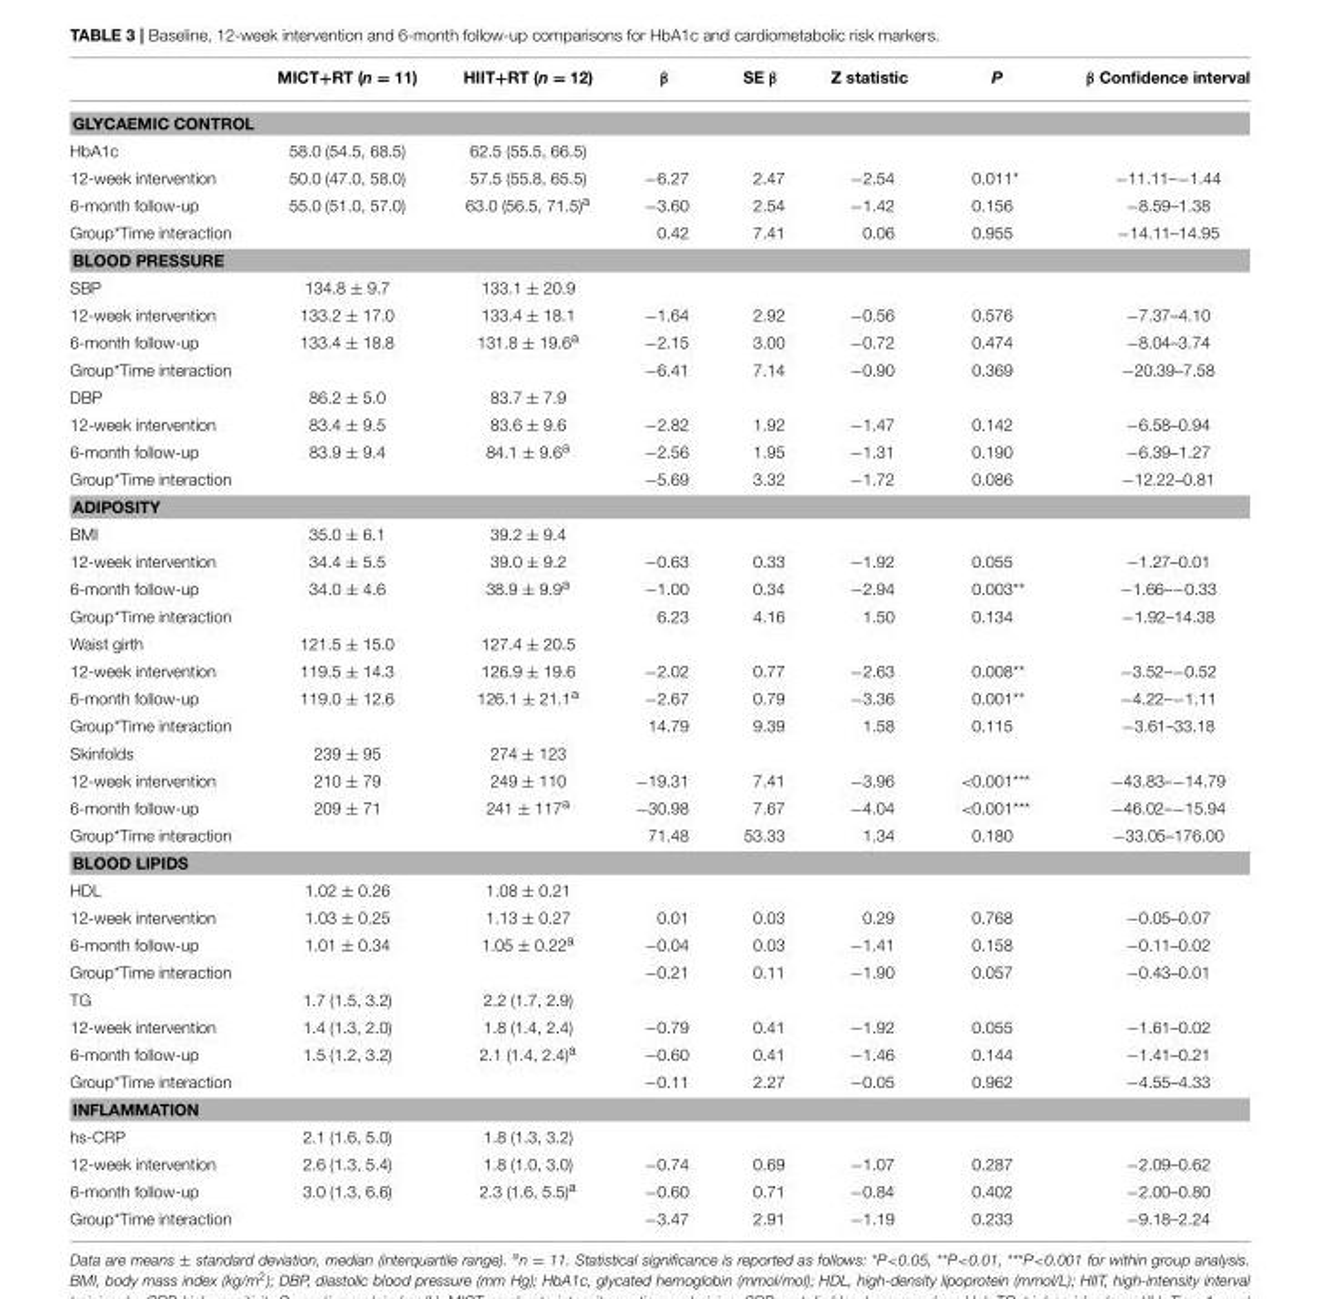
<table><thead><tr><td></td><td>MICT+RT (n = 11)</td><td>HIIT+RT (n = 12)</td><td>β</td><td>SE β</td><td>Z statistic</td><td>P</td><td>β Confidence interval</td></tr></thead><tbody><tr><td colspan="8">GLYCAEMIC CONTROL</td></tr><tr><td>HbA1c</td><td>58.0 (54.5, 68.5)</td><td>62.5 (55.5, 66.5)</td><td></td><td></td><td></td><td></td><td></td></tr><tr><td>12-week intervention</td><td>50.0 (47.0, 58.0)</td><td>57.5 (55.8, 65.5)</td><td>−6.27</td><td>2.47</td><td>−2.54</td><td>0.011*</td><td>−11.11–−1.44</td></tr><tr><td>6-month follow-up</td><td>55.0 (51.0, 57.0)</td><td>63.0 (56.5, 71.5)<sup>a</sup></td><td>−3.60</td><td>2.54</td><td>−1.42</td><td>0.156</td><td>−8.59–1.38</td></tr><tr><td>Group*Time interaction</td><td></td><td></td><td>0.42</td><td>7.41</td><td>0.06</td><td>0.955</td><td>−14.11–14.95</td></tr><tr><td colspan="8">BLOOD PRESSURE</td></tr><tr><td>SBP</td><td>134.8 ± 9.7</td><td>133.1 ± 20.9</td><td></td><td></td><td></td><td></td><td></td></tr><tr><td>12-week intervention</td><td>133.2 ± 17.0</td><td>133.4 ± 18.1</td><td>−1.64</td><td>2.92</td><td>−0.56</td><td>0.576</td><td>−7.37–4.10</td></tr><tr><td>6-month follow-up</td><td>133.4 ± 18.8</td><td>131.8 ± 19.6<sup>a</sup></td><td>−2.15</td><td>3.00</td><td>−0.72</td><td>0.474</td><td>−8.04–3.74</td></tr><tr><td>Group*Time interaction</td><td></td><td></td><td>−6.41</td><td>7.14</td><td>−0.90</td><td>0.369</td><td>−20.39–7.58</td></tr><tr><td>DBP</td><td>86.2 ± 5.0</td><td>83.7 ± 7.9</td><td></td><td></td><td></td><td></td><td></td></tr><tr><td>12-week intervention</td><td>83.4 ± 9.5</td><td>83.6 ± 9.6</td><td>−2.82</td><td>1.92</td><td>−1.47</td><td>0.142</td><td>−6.58–0.94</td></tr><tr><td>6-month follow-up</td><td>83.9 ± 9.4</td><td>84.1 ± 9.6<sup>a</sup></td><td>−2.56</td><td>1.95</td><td>−1.31</td><td>0.190</td><td>−6.39–1.27</td></tr><tr><td>Group*Time interaction</td><td></td><td></td><td>−5.69</td><td>3.32</td><td>−1.72</td><td>0.086</td><td>−12.22–0.81</td></tr><tr><td colspan="8">ADIPOSITY</td></tr><tr><td>BMI</td><td>35.0 ± 6.1</td><td>39.2 ± 9.4</td><td></td><td></td><td></td><td></td><td></td></tr><tr><td>12-week intervention</td><td>34.4 ± 5.5</td><td>39.0 ± 9.2</td><td>−0.63</td><td>0.33</td><td>−1.92</td><td>0.055</td><td>−1.27–0.01</td></tr><tr><td>6-month follow-up</td><td>34.0 ± 4.6</td><td>38.9 ± 9.9<sup>a</sup></td><td>−1.00</td><td>0.34</td><td>−2.94</td><td>0.003**</td><td>−1.66–−0.33</td></tr><tr><td>Group*Time interaction</td><td></td><td></td><td>6.23</td><td>4.16</td><td>1.50</td><td>0.134</td><td>−1.92–14.38</td></tr><tr><td>Waist girth</td><td>121.5 ± 15.0</td><td>127.4 ± 20.5</td><td></td><td></td><td></td><td></td><td></td></tr><tr><td>12-week intervention</td><td>119.5 ± 14.3</td><td>126.9 ± 19.6</td><td>−2.02</td><td>0.77</td><td>−2.63</td><td>0.008**</td><td>−3.52–−0.52</td></tr><tr><td>6-month follow-up</td><td>119.0 ± 12.6</td><td>126.1 ± 21.1<sup>a</sup></td><td>−2.67</td><td>0.79</td><td>−3.36</td><td>0.001**</td><td>−4.22–−1.11</td></tr><tr><td>Group*Time interaction</td><td></td><td></td><td>14.79</td><td>9.39</td><td>1.58</td><td>0.115</td><td>−3.61–33.18</td></tr><tr><td>Skinfolds</td><td>239 ± 95</td><td>274 ± 123</td><td></td><td></td><td></td><td></td><td></td></tr><tr><td>12-week intervention</td><td>210 ± 79</td><td>249 ± 110</td><td>−19.31</td><td>7.41</td><td>−3.96</td><td>&lt;0.001***</td><td>−43.83–−14.79</td></tr><tr><td>6-month follow-up</td><td>209 ± 71</td><td>241 ± 117<sup>a</sup></td><td>−30.98</td><td>7.67</td><td>−4.04</td><td>&lt;0.001***</td><td>−46.02–−15.94</td></tr><tr><td>Group*Time interaction</td><td></td><td></td><td>71.48</td><td>53.33</td><td>1.34</td><td>0.180</td><td>−33.05–176.00</td></tr><tr><td colspan="8">BLOOD LIPIDS</td></tr><tr><td>HDL</td><td>1.02 ± 0.26</td><td>1.08 ± 0.21</td><td></td><td></td><td></td><td></td><td></td></tr><tr><td>12-week intervention</td><td>1.03 ± 0.25</td><td>1.13 ± 0.27</td><td>0.01</td><td>0.03</td><td>0.29</td><td>0.768</td><td>−0.05–0.07</td></tr><tr><td>6-month follow-up</td><td>1.01 ± 0.34</td><td>1.05 ± 0.22<sup>a</sup></td><td>−0.04</td><td>0.03</td><td>−1.41</td><td>0.158</td><td>−0.11–0.02</td></tr><tr><td>Group*Time interaction</td><td></td><td></td><td>−0.21</td><td>0.11</td><td>−1.90</td><td>0.057</td><td>−0.43–0.01</td></tr><tr><td>TG</td><td>1.7 (1.5, 3.2)</td><td>2.2 (1.7, 2.9)</td><td></td><td></td><td></td><td></td><td></td></tr><tr><td>12-week intervention</td><td>1.4 (1.3, 2.0)</td><td>1.8 (1.4, 2.4)</td><td>−0.79</td><td>0.41</td><td>−1.92</td><td>0.055</td><td>−1.61–0.02</td></tr><tr><td>6-month follow-up</td><td>1.5 (1.2, 3.2)</td><td>2.1 (1.4, 2.4)<sup>a</sup></td><td>−0.60</td><td>0.41</td><td>−1.46</td><td>0.144</td><td>−1.41–0.21</td></tr><tr><td>Group*Time interaction</td><td></td><td></td><td>−0.11</td><td>2.27</td><td>−0.05</td><td>0.962</td><td>−4.55–4.33</td></tr><tr><td colspan="8">INFLAMMATION</td></tr><tr><td>hs-CRP</td><td>2.1 (1.6, 5.0)</td><td>1.8 (1.3, 3.2)</td><td></td><td></td><td></td><td></td><td></td></tr><tr><td>12-week intervention</td><td>2.6 (1.3, 5.4)</td><td>1.8 (1.0, 3.0)</td><td>−0.74</td><td>0.69</td><td>−1.07</td><td>0.287</td><td>−2.09–0.62</td></tr><tr><td>6-month follow-up</td><td>3.0 (1.3, 6.6)</td><td>2.3 (1.6, 5.5)<sup>a</sup></td><td>−0.60</td><td>0.71</td><td>−0.84</td><td>0.402</td><td>−2.00–0.80</td></tr><tr><td>Group*Time interaction</td><td></td><td></td><td>−3.47</td><td>2.91</td><td>−1.19</td><td>0.233</td><td>−9.18–2.24</td></tr></tbody></table>